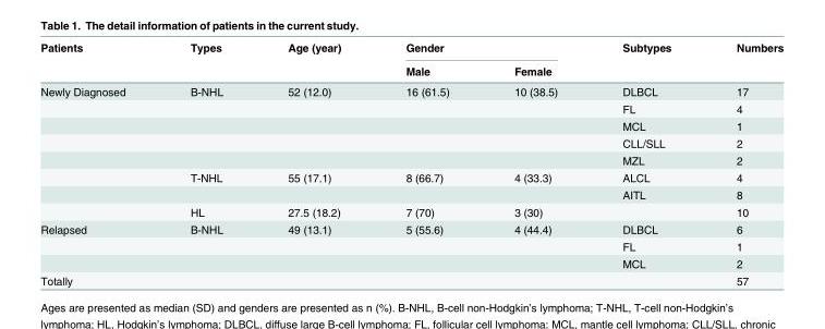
<table><thead><tr><td rowspan="2">Patients</td><td rowspan="2">Types</td><td rowspan="2">Age (year)</td><td colspan="2">Gender</td><td rowspan="2">Subtypes</td><td rowspan="2">Numbers</td></tr><tr><td>Male</td><td>Female</td></tr></thead><tbody><tr><td rowspan="8">Newly Diagnosed</td><td>B-NHL</td><td>52 (12.0)</td><td>16 (61.5)</td><td>10 (38.5)</td><td>DLBCL</td><td>17</td></tr><tr><td></td><td></td><td></td><td></td><td>FL</td><td>4</td></tr><tr><td></td><td></td><td></td><td></td><td>MCL</td><td>1</td></tr><tr><td></td><td></td><td></td><td></td><td>CLL/SLL</td><td>2</td></tr><tr><td></td><td></td><td></td><td></td><td>MZL</td><td>2</td></tr><tr><td>T-NHL</td><td>55 (17.1)</td><td>8 (66.7)</td><td>4 (33.3)</td><td>ALCL</td><td>4</td></tr><tr><td></td><td></td><td></td><td></td><td>AITL</td><td>8</td></tr><tr><td>HL</td><td>27.5 (18.2)</td><td>7 (70)</td><td>3 (30)</td><td></td><td>10</td></tr><tr><td rowspan="3">Relapsed</td><td>B-NHL</td><td>49 (13.1)</td><td>5 (55.6)</td><td>4 (44.4)</td><td>DLBCL</td><td>6</td></tr><tr><td></td><td></td><td></td><td></td><td>FL</td><td>1</td></tr><tr><td></td><td></td><td></td><td></td><td>MCL</td><td>2</td></tr><tr><td>Totally</td><td colspan="5"></td><td>57</td></tr></tbody></table>